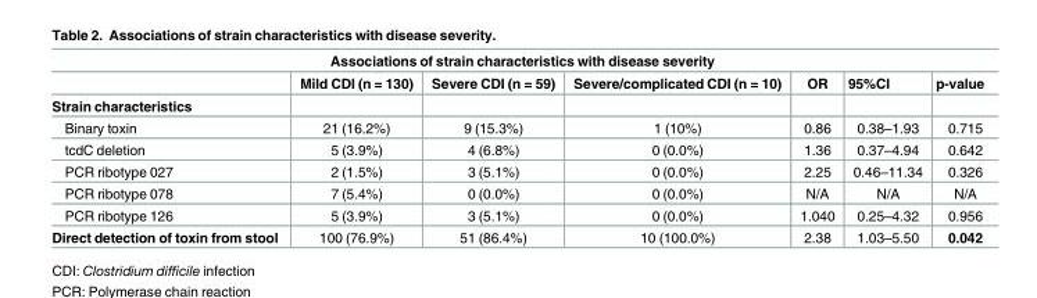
<table><thead><tr><td colspan="7">Associations of strain characteristics with disease severity</td></tr><tr><td></td><td>Mild CDI (n = 130)</td><td>Severe CDI (n = 59)</td><td>Severe/complicated CDI (n = 10)</td><td>OR</td><td>95%CI</td><td>p-value</td></tr></thead><tbody><tr><td colspan="7">Strain characteristics</td></tr><tr><td>Binary toxin</td><td>21 (16.2%)</td><td>9 (15.3%)</td><td>1 (10%)</td><td>0.86</td><td>0.38–1.93</td><td>0.715</td></tr><tr><td>tcdC deletion</td><td>5 (3.9%)</td><td>4 (6.8%)</td><td>0 (0.0%)</td><td>1.36</td><td>0.37–4.94</td><td>0.642</td></tr><tr><td>PCR ribotype 027</td><td>2 (1.5%)</td><td>3 (5.1%)</td><td>0 (0.0%)</td><td>2.25</td><td>0.46–11.34</td><td>0.326</td></tr><tr><td>PCR ribotype 078</td><td>7 (5.4%)</td><td>0 (0.0%)</td><td>0 (0.0%)</td><td>N/A</td><td>N/A</td><td>N/A</td></tr><tr><td>PCR ribotype 126</td><td>5 (3.9%)</td><td>3 (5.1%)</td><td>0 (0.0%)</td><td>1.040</td><td>0.25–4.32</td><td>0.956</td></tr><tr><td>Direct detection of toxin from stool</td><td>100 (76.9%)</td><td>51 (86.4%)</td><td>10 (100.0%)</td><td>2.38</td><td>1.03–5.50</td><td>0.042</td></tr></tbody></table>